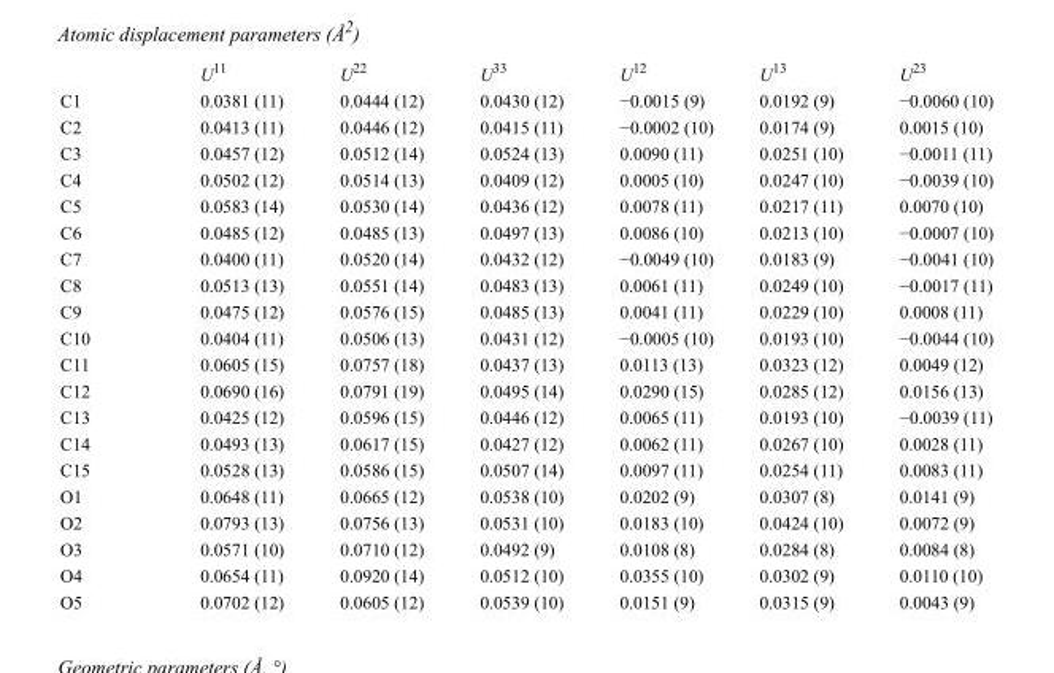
<table><thead><tr><td></td><td>U<sup>11</sup></td><td>U<sup>22</sup></td><td>U<sup>33</sup></td><td>U<sup>12</sup></td><td>U<sup>13</sup></td><td>U<sup>23</sup></td></tr></thead><tbody><tr><td>C1</td><td>0.0381 (11)</td><td>0.0444 (12)</td><td>0.0430 (12)</td><td>−0.0015 (9)</td><td>0.0192 (9)</td><td>−0.0060 (10)</td></tr><tr><td>C2</td><td>0.0413 (11)</td><td>0.0446 (12)</td><td>0.0415 (11)</td><td>−0.0002 (10)</td><td>0.0174 (9)</td><td>0.0015 (10)</td></tr><tr><td>C3</td><td>0.0457 (12)</td><td>0.0512 (14)</td><td>0.0524 (13)</td><td>0.0090 (11)</td><td>0.0251 (10)</td><td>−0.0011 (11)</td></tr><tr><td>C4</td><td>0.0502 (12)</td><td>0.0514 (13)</td><td>0.0409 (12)</td><td>0.0005 (10)</td><td>0.0247 (10)</td><td>−0.0039 (10)</td></tr><tr><td>C5</td><td>0.0583 (14)</td><td>0.0530 (14)</td><td>0.0436 (12)</td><td>0.0078 (11)</td><td>0.0217 (11)</td><td>0.0070 (10)</td></tr><tr><td>C6</td><td>0.0485 (12)</td><td>0.0485 (13)</td><td>0.0497 (13)</td><td>0.0086 (10)</td><td>0.0213 (10)</td><td>−0.0007 (10)</td></tr><tr><td>C7</td><td>0.0400 (11)</td><td>0.0520 (14)</td><td>0.0432 (12)</td><td>−0.0049 (10)</td><td>0.0183 (9)</td><td>−0.0041 (10)</td></tr><tr><td>C8</td><td>0.0513 (13)</td><td>0.0551 (14)</td><td>0.0483 (13)</td><td>0.0061 (11)</td><td>0.0249 (10)</td><td>−0.0017 (11)</td></tr><tr><td>C9</td><td>0.0475 (12)</td><td>0.0576 (15)</td><td>0.0485 (13)</td><td>0.0041 (11)</td><td>0.0229 (10)</td><td>0.0008 (11)</td></tr><tr><td>C10</td><td>0.0404 (11)</td><td>0.0506 (13)</td><td>0.0431 (12)</td><td>−0.0005 (10)</td><td>0.0193 (10)</td><td>−0.0044 (10)</td></tr><tr><td>C11</td><td>0.0605 (15)</td><td>0.0757 (18)</td><td>0.0437 (13)</td><td>0.0113 (13)</td><td>0.0323 (12)</td><td>0.0049 (12)</td></tr><tr><td>C12</td><td>0.0690 (16)</td><td>0.0791 (19)</td><td>0.0495 (14)</td><td>0.0290 (15)</td><td>0.0285 (12)</td><td>0.0156 (13)</td></tr><tr><td>C13</td><td>0.0425 (12)</td><td>0.0596 (15)</td><td>0.0446 (12)</td><td>0.0065 (11)</td><td>0.0193 (10)</td><td>−0.0039 (11)</td></tr><tr><td>C14</td><td>0.0493 (13)</td><td>0.0617 (15)</td><td>0.0427 (12)</td><td>0.0062 (11)</td><td>0.0267 (10)</td><td>0.0028 (11)</td></tr><tr><td>C15</td><td>0.0528 (13)</td><td>0.0586 (15)</td><td>0.0507 (14)</td><td>0.0097 (11)</td><td>0.0254 (11)</td><td>0.0083 (11)</td></tr><tr><td>O1</td><td>0.0648 (11)</td><td>0.0665 (12)</td><td>0.0538 (10)</td><td>0.0202 (9)</td><td>0.0307 (8)</td><td>0.0141 (9)</td></tr><tr><td>O2</td><td>0.0793 (13)</td><td>0.0756 (13)</td><td>0.0531 (10)</td><td>0.0183 (10)</td><td>0.0424 (10)</td><td>0.0072 (9)</td></tr><tr><td>O3</td><td>0.0571 (10)</td><td>0.0710 (12)</td><td>0.0492 (9)</td><td>0.0108 (8)</td><td>0.0284 (8)</td><td>0.0084 (8)</td></tr><tr><td>O4</td><td>0.0654 (11)</td><td>0.0920 (14)</td><td>0.0512 (10)</td><td>0.0355 (10)</td><td>0.0302 (9)</td><td>0.0110 (10)</td></tr><tr><td>O5</td><td>0.0702 (12)</td><td>0.0605 (12)</td><td>0.0539 (10)</td><td>0.0151 (9)</td><td>0.0315 (9)</td><td>0.0043 (9)</td></tr></tbody></table>